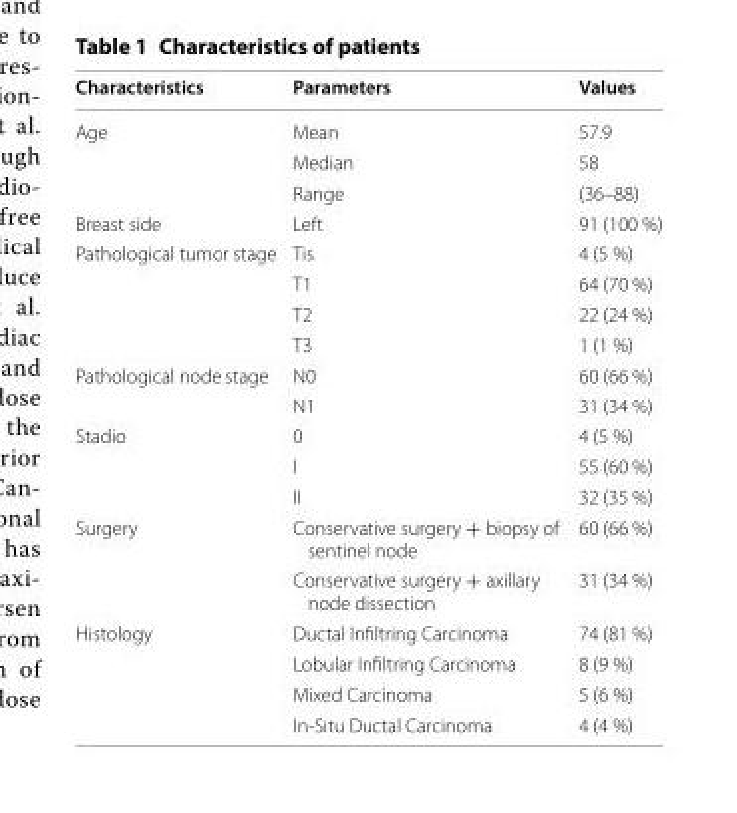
<table><thead><tr><td>Characteristics</td><td>Parameters</td><td>Values</td></tr></thead><tbody><tr><td rowspan="3">Age</td><td>Mean</td><td>57.9</td></tr><tr><td>Median</td><td>58</td></tr><tr><td>Range</td><td>(36–88)</td></tr><tr><td>Breast side</td><td>Left</td><td>91 (100 %)</td></tr><tr><td rowspan="4">Pathological tumor stage</td><td>Tis</td><td>4 (5 %)</td></tr><tr><td>T1</td><td>64 (70 %)</td></tr><tr><td>T2</td><td>22 (24 %)</td></tr><tr><td>T3</td><td>1 (1 %)</td></tr><tr><td rowspan="2">Pathological node stage</td><td>N0</td><td>60 (66 %)</td></tr><tr><td>N1</td><td>31 (34 %)</td></tr><tr><td rowspan="3">Stadio</td><td>0</td><td>4 (5 %)</td></tr><tr><td>I</td><td>55 (60 %)</td></tr><tr><td>II</td><td>32 (35 %)</td></tr><tr><td rowspan="2">Surgery</td><td>Conservative surgery + biopsy of sentinel node</td><td>60 (66 %)</td></tr><tr><td>Conservative surgery + axillary node dissection</td><td>31 (34 %)</td></tr><tr><td rowspan="4">Histology</td><td>Ductal Infiltring Carcinoma</td><td>74 (81 %)</td></tr><tr><td>Lobular Infiltring Carcinoma</td><td>8 (9 %)</td></tr><tr><td>Mixed Carcinoma</td><td>5 (6 %)</td></tr><tr><td>In-Situ Ductal Carcinoma</td><td>4 (4 %)</td></tr></tbody></table>